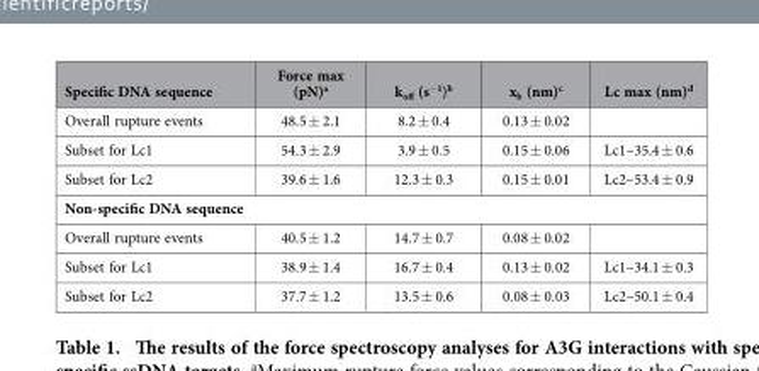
<table><thead><tr><td>Specific DNA sequence</td><td>Force max (pN)<sup>a</sup></td><td>k<sub>off</sub> (s<sup>−1</sup>)<sup>b</sup></td><td>x<sub>b</sub> (nm)<sup>c</sup></td><td>Lc max (nm)<sup>d</sup></td></tr></thead><tbody><tr><td>Overall rupture events</td><td>48.5 ± 2.1</td><td>8.2 ± 0.4</td><td>0.13 ± 0.02</td><td></td></tr><tr><td>Subset for Lc1</td><td>54.3 ± 2.9</td><td>3.9 ± 0.5</td><td>0.15 ± 0.06</td><td>Lc1–35.4 ± 0.6</td></tr><tr><td>Subset for Lc2</td><td>39.6 ± 1.6</td><td>12.3 ± 0.3</td><td>0.15 ± 0.01</td><td>Lc2–53.4 ± 0.9</td></tr><tr><td colspan="5">Non-specific DNA sequence</td></tr><tr><td>Overall rupture events</td><td>40.5 ± 1.2</td><td>14.7 ± 0.7</td><td>0.08 ± 0.02</td><td></td></tr><tr><td>Subset for Lc1</td><td>38.9 ± 1.4</td><td>16.7 ± 0.4</td><td>0.13 ± 0.02</td><td>Lc1–34.1 ± 0.3</td></tr><tr><td>Subset for Lc2</td><td>37.7 ± 1.2</td><td>13.5 ± 0.6</td><td>0.08 ± 0.03</td><td>Lc2–50.1 ± 0.4</td></tr></tbody></table>